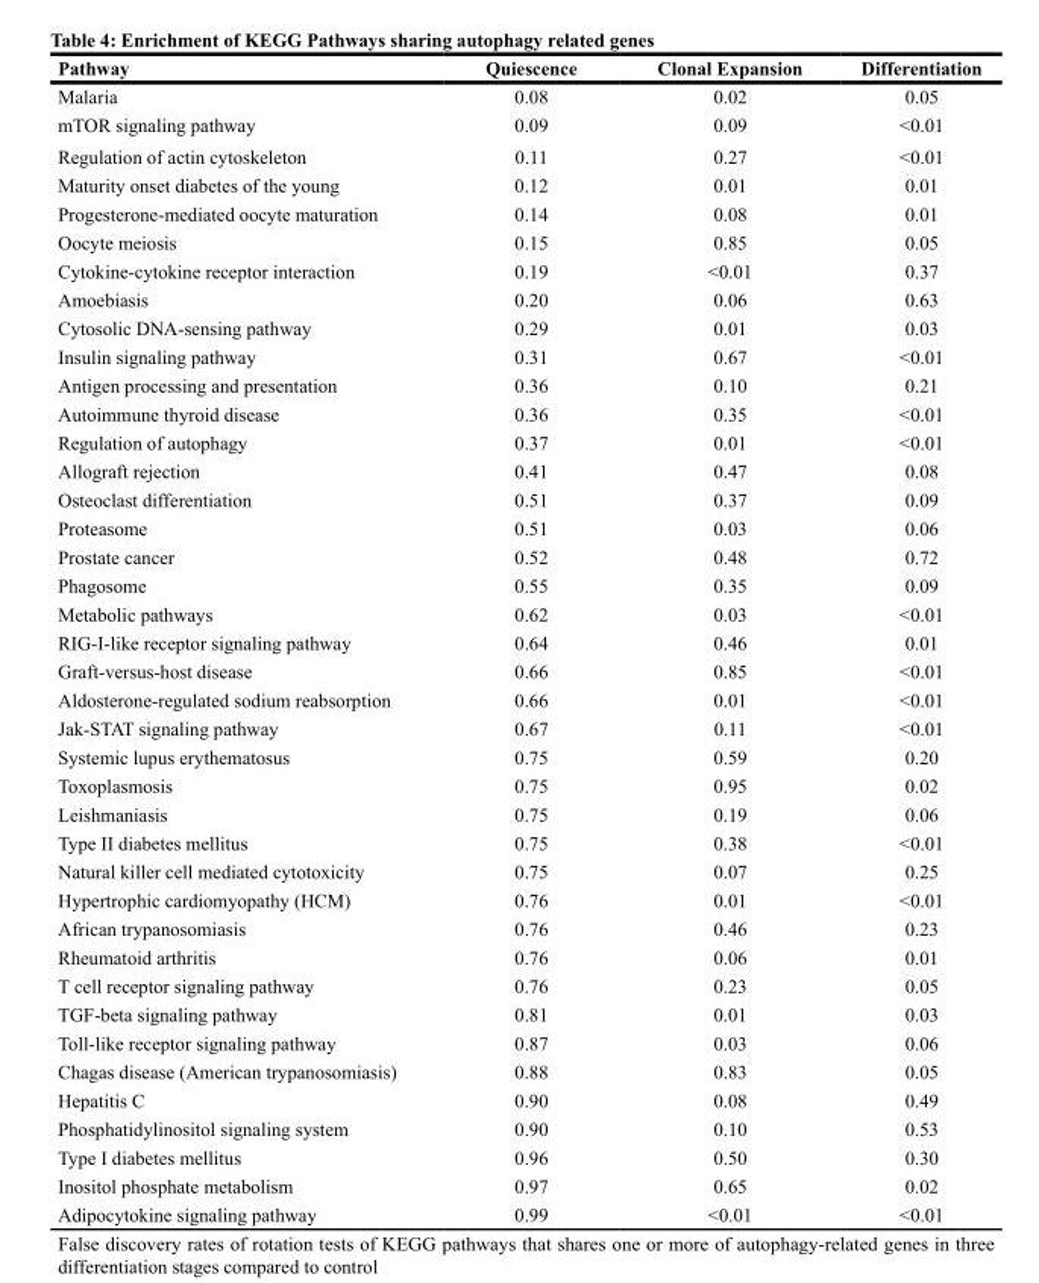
<table><thead><tr><td>Pathway</td><td>Quiescence</td><td>Clonal Expansion</td><td>Differentiation</td></tr></thead><tbody><tr><td>Malaria</td><td>0.08</td><td>0.02</td><td>0.05</td></tr><tr><td>mTOR signaling pathway</td><td>0.09</td><td>0.09</td><td>&lt;0.01</td></tr><tr><td>Regulation of actin cytoskeleton</td><td>0.11</td><td>0.27</td><td>&lt;0.01</td></tr><tr><td>Maturity onset diabetes of the young</td><td>0.12</td><td>0.01</td><td>0.01</td></tr><tr><td>Progesterone-mediated oocyte maturation</td><td>0.14</td><td>0.08</td><td>0.01</td></tr><tr><td>Oocyte meiosis</td><td>0.15</td><td>0.85</td><td>0.05</td></tr><tr><td>Cytokine-cytokine receptor interaction</td><td>0.19</td><td>&lt;0.01</td><td>0.37</td></tr><tr><td>Amoebiasis</td><td>0.20</td><td>0.06</td><td>0.63</td></tr><tr><td>Cytosolic DNA-sensing pathway</td><td>0.29</td><td>0.01</td><td>0.03</td></tr><tr><td>Insulin signaling pathway</td><td>0.31</td><td>0.67</td><td>&lt;0.01</td></tr><tr><td>Antigen processing and presentation</td><td>0.36</td><td>0.10</td><td>0.21</td></tr><tr><td>Autoimmune thyroid disease</td><td>0.36</td><td>0.35</td><td>&lt;0.01</td></tr><tr><td>Regulation of autophagy</td><td>0.37</td><td>0.01</td><td>&lt;0.01</td></tr><tr><td>Allograft rejection</td><td>0.41</td><td>0.47</td><td>0.08</td></tr><tr><td>Osteoclast differentiation</td><td>0.51</td><td>0.37</td><td>0.09</td></tr><tr><td>Proteasome</td><td>0.51</td><td>0.03</td><td>0.06</td></tr><tr><td>Prostate cancer</td><td>0.52</td><td>0.48</td><td>0.72</td></tr><tr><td>Phagosome</td><td>0.55</td><td>0.35</td><td>0.09</td></tr><tr><td>Metabolic pathways</td><td>0.62</td><td>0.03</td><td>&lt;0.01</td></tr><tr><td>RIG-I-like receptor signaling pathway</td><td>0.64</td><td>0.46</td><td>0.01</td></tr><tr><td>Graft-versus-host disease</td><td>0.66</td><td>0.85</td><td>&lt;0.01</td></tr><tr><td>Aldosterone-regulated sodium reabsorption</td><td>0.66</td><td>0.01</td><td>&lt;0.01</td></tr><tr><td>Jak-STAT signaling pathway</td><td>0.67</td><td>0.11</td><td>&lt;0.01</td></tr><tr><td>Systemic lupus erythematosus</td><td>0.75</td><td>0.59</td><td>0.20</td></tr><tr><td>Toxoplasmosis</td><td>0.75</td><td>0.95</td><td>0.02</td></tr><tr><td>Leishmaniasis</td><td>0.75</td><td>0.19</td><td>0.06</td></tr><tr><td>Type II diabetes mellitus</td><td>0.75</td><td>0.38</td><td>&lt;0.01</td></tr><tr><td>Natural killer cell mediated cytotoxicity</td><td>0.75</td><td>0.07</td><td>0.25</td></tr><tr><td>Hypertrophic cardiomyopathy (HCM)</td><td>0.76</td><td>0.01</td><td>&lt;0.01</td></tr><tr><td>African trypanosomiasis</td><td>0.76</td><td>0.46</td><td>0.23</td></tr><tr><td>Rheumatoid arthritis</td><td>0.76</td><td>0.06</td><td>0.01</td></tr><tr><td>T cell receptor signaling pathway</td><td>0.76</td><td>0.23</td><td>0.05</td></tr><tr><td>TGF-beta signaling pathway</td><td>0.81</td><td>0.01</td><td>0.03</td></tr><tr><td>Toll-like receptor signaling pathway</td><td>0.87</td><td>0.03</td><td>0.06</td></tr><tr><td>Chagas disease (American trypanosomiasis)</td><td>0.88</td><td>0.83</td><td>0.05</td></tr><tr><td>Hepatitis C</td><td>0.90</td><td>0.08</td><td>0.49</td></tr><tr><td>Phosphatidylinositol signaling system</td><td>0.90</td><td>0.10</td><td>0.53</td></tr><tr><td>Type I diabetes mellitus</td><td>0.96</td><td>0.50</td><td>0.30</td></tr><tr><td>Inositol phosphate metabolism</td><td>0.97</td><td>0.65</td><td>0.02</td></tr><tr><td>Adipocytokine signaling pathway</td><td>0.99</td><td>&lt;0.01</td><td>&lt;0.01</td></tr></tbody></table>